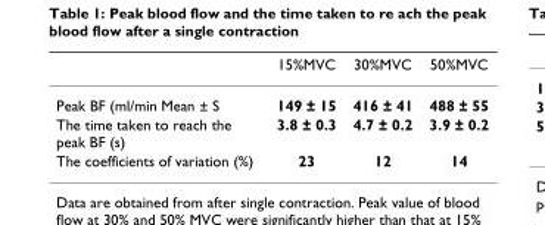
<table><thead><tr><td></td><td>15%MVC</td><td>30%MVC</td><td>50%MVC</td></tr></thead><tbody><tr><td>Peak BF (ml/min Mean ± S</td><td>149 ± 15</td><td>416 ± 41</td><td>488 ± 55</td></tr><tr><td>The time taken to reach the peak BF (s)</td><td>3.8 ± 0.3</td><td>4.7 ± 0.2</td><td>3.9 ± 0.2</td></tr><tr><td>The coefficients of variation (%)</td><td>23</td><td>12</td><td>14</td></tr></tbody></table>